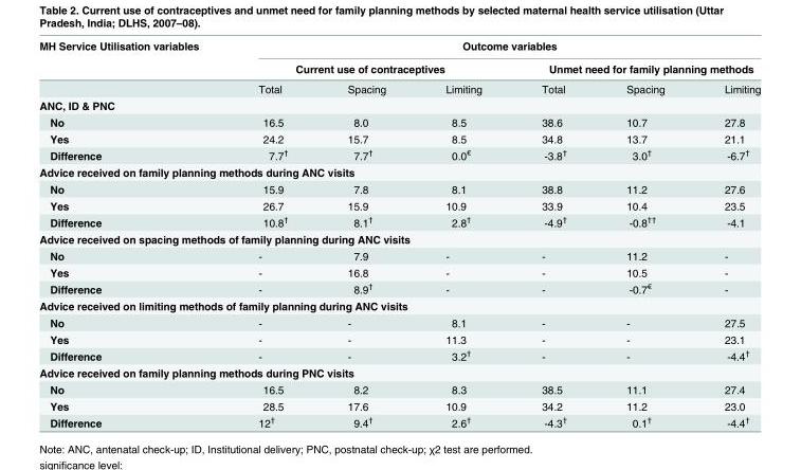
<table><thead><tr><td rowspan="3">MH Service Utilisation variables</td><td colspan="6">Outcome variables</td></tr><tr><td colspan="3">Current use of contraceptives</td><td colspan="3">Unmet need for family planning methods</td></tr><tr><td>Total</td><td>Spacing</td><td>Limiting</td><td>Total</td><td>Spacing</td><td>Limiting</td></tr></thead><tbody><tr><td colspan="7">ANC, ID &amp; PNC</td></tr><tr><td>No</td><td>16.5</td><td>8.0</td><td>8.5</td><td>38.6</td><td>10.7</td><td>27.8</td></tr><tr><td>Yes</td><td>24.2</td><td>15.7</td><td>8.5</td><td>34.8</td><td>13.7</td><td>21.1</td></tr><tr><td>Difference</td><td>7.7<sup>†</sup></td><td>7.7<sup>†</sup></td><td>0.0<sup>€</sup></td><td>-3.8<sup>†</sup></td><td>3.0<sup>†</sup></td><td>-6.7<sup>†</sup></td></tr><tr><td colspan="7">Advice received on family planning methods during ANC visits</td></tr><tr><td>No</td><td>15.9</td><td>7.8</td><td>8.1</td><td>38.8</td><td>11.2</td><td>27.6</td></tr><tr><td>Yes</td><td>26.7</td><td>15.9</td><td>10.9</td><td>33.9</td><td>10.4</td><td>23.5</td></tr><tr><td>Difference</td><td>10.8<sup>†</sup></td><td>8.1<sup>†</sup></td><td>2.8<sup>†</sup></td><td>-4.9<sup>†</sup></td><td>-0.8<sup>††</sup></td><td>-4.1</td></tr><tr><td colspan="7">Advice received on spacing methods of family planning during ANC visits</td></tr><tr><td>No</td><td>-</td><td>7.9</td><td>-</td><td>-</td><td>11.2</td><td>-</td></tr><tr><td>Yes</td><td>-</td><td>16.8</td><td>-</td><td>-</td><td>10.5</td><td>-</td></tr><tr><td>Difference</td><td>-</td><td>8.9<sup>†</sup></td><td>-</td><td>-</td><td>-0.7<sup>€</sup></td><td>-</td></tr><tr><td colspan="7">Advice received on limiting methods of family planning during ANC visits</td></tr><tr><td>No</td><td>-</td><td>-</td><td>8.1</td><td>-</td><td>-</td><td>27.5</td></tr><tr><td>Yes</td><td>-</td><td>-</td><td>11.3</td><td>-</td><td>-</td><td>23.1</td></tr><tr><td>Difference</td><td>-</td><td>-</td><td>3.2<sup>†</sup></td><td>-</td><td>-</td><td>-4.4<sup>†</sup></td></tr><tr><td colspan="7">Advice received on family planning methods during PNC visits</td></tr><tr><td>No</td><td>16.5</td><td>8.2</td><td>8.3</td><td>38.5</td><td>11.1</td><td>27.4</td></tr><tr><td>Yes</td><td>28.5</td><td>17.6</td><td>10.9</td><td>34.2</td><td>11.2</td><td>23.0</td></tr><tr><td>Difference</td><td>12<sup>†</sup></td><td>9.4<sup>†</sup></td><td>2.6<sup>†</sup></td><td>-4.3<sup>†</sup></td><td>0.1<sup>†</sup></td><td>-4.4<sup>†</sup></td></tr></tbody></table>